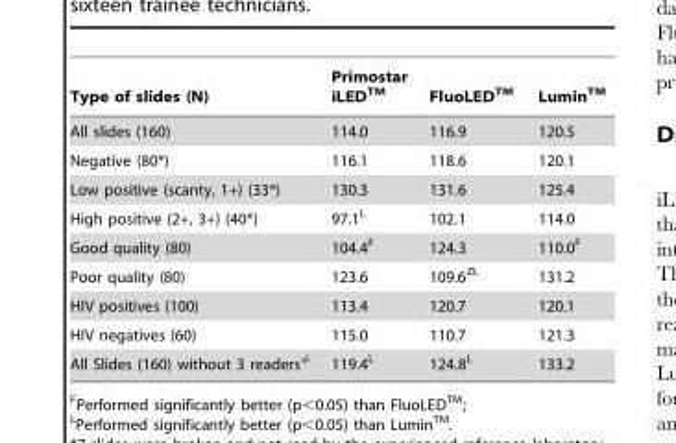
<table><thead><tr><td>Type of slides (N)</td><td>Primostar iLEDTM</td><td>FluoLEDTM</td><td>LuminTM</td></tr></thead><tbody><tr><td>All slides (160)</td><td>114.0</td><td>116.9</td><td>120.5</td></tr><tr><td>Negative (80*)</td><td>116.1</td><td>118.6</td><td>120.1</td></tr><tr><td>Low positive (scanty, 1+) (33*)</td><td>130.3</td><td>131.6</td><td>125.4</td></tr><tr><td>High positive (2+, 3+) (40*)</td><td>97.1<sup>L</sup></td><td>102.1</td><td>114.0</td></tr><tr><td>Good quality (80)</td><td>104.4<sup>F</sup></td><td>124.3</td><td>110.0<sup>F</sup></td></tr><tr><td>Poor quality (80)</td><td>123.6</td><td>109.6<sup>Z</sup>L</td><td>131.2</td></tr><tr><td>HIV positives (100)</td><td>113.4</td><td>120.7</td><td>120.1</td></tr><tr><td>HIV negatives (60)</td><td>115.0</td><td>110.7</td><td>121.3</td></tr><tr><td>All Slides (160) without 3 readers#</td><td>119.4<sup>L</sup></td><td>124.8<sup>L</sup></td><td>133.2</td></tr></tbody></table>